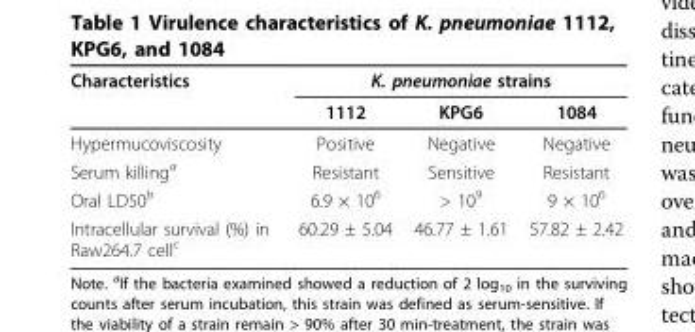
<table><thead><tr><td rowspan="2">Characteristics</td><td colspan="3">K. pneumoniae strains</td></tr><tr><td>1112</td><td>KPG6</td><td>1084</td></tr></thead><tbody><tr><td>Hypermucoviscosity</td><td>Positive</td><td>Negative</td><td>Negative</td></tr><tr><td>Serum killing<sup>a</sup></td><td>Resistant</td><td>Sensitive</td><td>Resistant</td></tr><tr><td>Oral LD50<sup>b</sup></td><td>6.9 × 10<sup>6</sup></td><td>&gt; 10<sup>9</sup></td><td>9 × 10<sup>6</sup></td></tr><tr><td>Intracellular survival (%) in Raw264.7 cell<sup>c</sup></td><td>60.29 ± 5.04</td><td>46.77 ± 1.61</td><td>57.82 ± 2.42</td></tr></tbody></table>